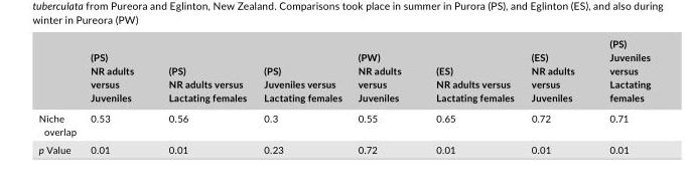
<table><thead><tr><td></td><td>(PS) NR adults versus Juveniles</td><td>(PS) NR adults versus Lactating females</td><td>(PS) Juveniles versus Lactating females</td><td>(PW) NR adults versus Juveniles</td><td>(ES) NR adults versus Lactating females</td><td>(ES) NR adults versus Juveniles</td><td>(PS) Juveniles versus Lactating females</td></tr></thead><tbody><tr><td>Niche overlap</td><td>0.53</td><td>0.56</td><td>0.3</td><td>0.55</td><td>0.65</td><td>0.72</td><td>0.71</td></tr><tr><td>p Value</td><td>0.01</td><td>0.01</td><td>0.23</td><td>0.72</td><td>0.01</td><td>0.01</td><td>0.01</td></tr></tbody></table>